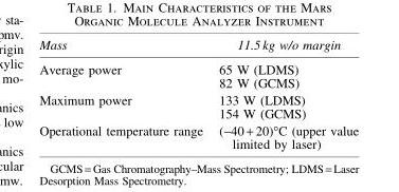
<table><thead><tr><td>Mass</td><td>11.5 kg w/o margin</td></tr></thead><tbody><tr><td rowspan="2">Average power</td><td>65 W (LDMS)</td></tr><tr><td>82 W (GCMS)</td></tr><tr><td rowspan="2">Maximum power</td><td>133 W (LDMS)</td></tr><tr><td>154 W (GCMS)</td></tr><tr><td>Operational temperature range</td><td>(-40 + 20)°C (upper value limited by laser)</td></tr></tbody></table>